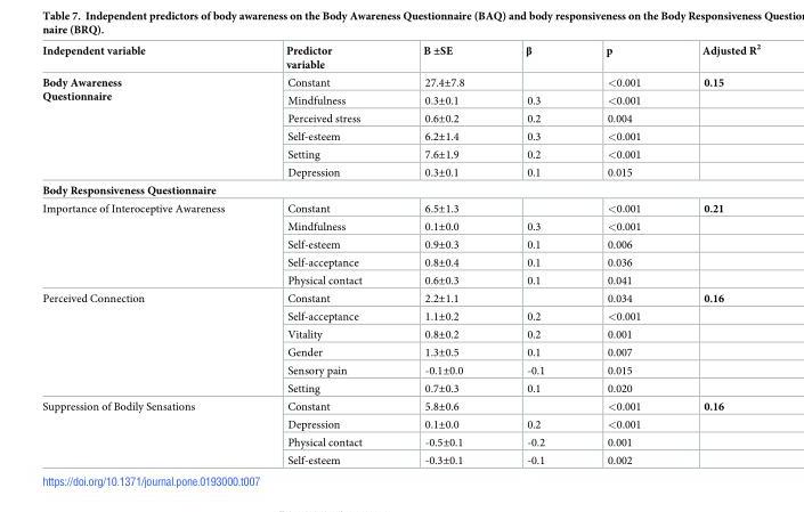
<table><thead><tr><td>Independent variable</td><td>Predictor variable</td><td>B ±SE</td><td>β</td><td>p</td><td>Adjusted R<sup>2</sup></td></tr></thead><tbody><tr><td rowspan="6">Body Awareness Questionnaire</td><td>Constant</td><td>27.4±7.8</td><td></td><td>&lt;0.001</td><td>0.15</td></tr><tr><td>Mindfulness</td><td>0.3±0.1</td><td>0.3</td><td>&lt;0.001</td><td></td></tr><tr><td>Perceived stress</td><td>0.6±0.2</td><td>0.2</td><td>0.004</td><td></td></tr><tr><td>Self-esteem</td><td>6.2±1.4</td><td>0.3</td><td>&lt;0.001</td><td></td></tr><tr><td>Setting</td><td>7.6±1.9</td><td>0.2</td><td>&lt;0.001</td><td></td></tr><tr><td>Depression</td><td>0.3±0.1</td><td>0.1</td><td>0.015</td><td></td></tr><tr><td colspan="6">Body Responsiveness Questionnaire</td></tr><tr><td rowspan="5">Importance of Interoceptive Awareness</td><td>Constant</td><td>6.5±1.3</td><td></td><td>&lt;0.001</td><td>0.21</td></tr><tr><td>Mindfulness</td><td>0.1±0.0</td><td>0.3</td><td>&lt;0.001</td><td></td></tr><tr><td>Self-esteem</td><td>0.9±0.3</td><td>0.1</td><td>0.006</td><td></td></tr><tr><td>Self-acceptance</td><td>0.8±0.4</td><td>0.1</td><td>0.036</td><td></td></tr><tr><td>Physical contact</td><td>0.6±0.3</td><td>0.1</td><td>0.041</td><td></td></tr><tr><td rowspan="6">Perceived Connection</td><td>Constant</td><td>2.2±1.1</td><td></td><td>0.034</td><td>0.16</td></tr><tr><td>Self-acceptance</td><td>1.1±0.2</td><td>0.2</td><td>&lt;0.001</td><td></td></tr><tr><td>Vitality</td><td>0.8±0.2</td><td>0.2</td><td>0.001</td><td></td></tr><tr><td>Gender</td><td>1.3±0.5</td><td>0.1</td><td>0.007</td><td></td></tr><tr><td>Sensory pain</td><td>-0.1±0.0</td><td>-0.1</td><td>0.015</td><td></td></tr><tr><td>Setting</td><td>0.7±0.3</td><td>0.1</td><td>0.020</td><td></td></tr><tr><td rowspan="4">Suppression of Bodily Sensations</td><td>Constant</td><td>5.8±0.6</td><td></td><td>&lt;0.001</td><td>0.16</td></tr><tr><td>Depression</td><td>0.1±0.0</td><td>0.2</td><td>&lt;0.001</td><td></td></tr><tr><td>Physical contact</td><td>-0.5±0.1</td><td>-0.2</td><td>0.001</td><td></td></tr><tr><td>Self-esteem</td><td>-0.3±0.1</td><td>-0.1</td><td>0.002</td><td></td></tr></tbody></table>